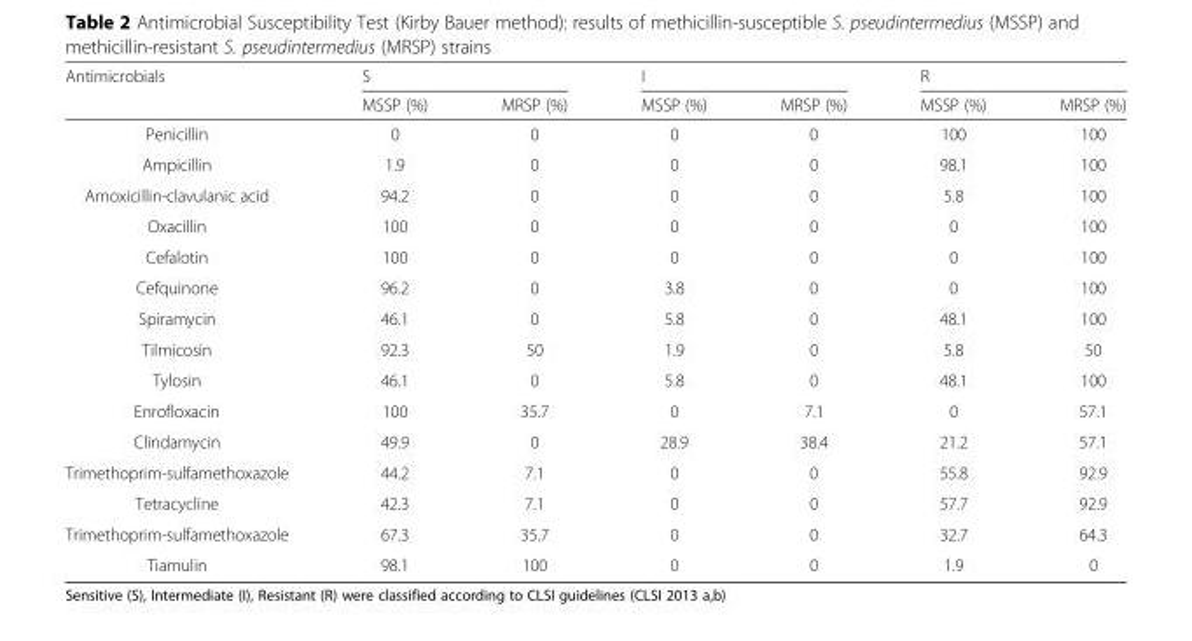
<table><thead><tr><td rowspan="2">Antimicrobials</td><td colspan="2">S</td><td colspan="2">I</td><td colspan="2">R</td></tr><tr><td>MSSP (%)</td><td>MRSP (%)</td><td>MSSP (%)</td><td>MRSP (%)</td><td>MSSP (%)</td><td>MRSP (%)</td></tr></thead><tbody><tr><td>Penicillin</td><td>0</td><td>0</td><td>0</td><td>0</td><td>100</td><td>100</td></tr><tr><td>Ampicillin</td><td>1.9</td><td>0</td><td>0</td><td>0</td><td>98.1</td><td>100</td></tr><tr><td>Amoxicillin-clavulanic acid</td><td>94.2</td><td>0</td><td>0</td><td>0</td><td>5.8</td><td>100</td></tr><tr><td>Oxacillin</td><td>100</td><td>0</td><td>0</td><td>0</td><td>0</td><td>100</td></tr><tr><td>Cefalotin</td><td>100</td><td>0</td><td>0</td><td>0</td><td>0</td><td>100</td></tr><tr><td>Cefquinone</td><td>96.2</td><td>0</td><td>3.8</td><td>0</td><td>0</td><td>100</td></tr><tr><td>Spiramycin</td><td>46.1</td><td>0</td><td>5.8</td><td>0</td><td>48.1</td><td>100</td></tr><tr><td>Tilmicosin</td><td>92.3</td><td>50</td><td>1.9</td><td>0</td><td>5.8</td><td>50</td></tr><tr><td>Tylosin</td><td>46.1</td><td>0</td><td>5.8</td><td>0</td><td>48.1</td><td>100</td></tr><tr><td>Enrofloxacin</td><td>100</td><td>35.7</td><td>0</td><td>7.1</td><td>0</td><td>57.1</td></tr><tr><td>Clindamycin</td><td>49.9</td><td>0</td><td>28.9</td><td>38.4</td><td>21.2</td><td>57.1</td></tr><tr><td>Trimethoprim-sulfamethoxazole</td><td>44.2</td><td>7.1</td><td>0</td><td>0</td><td>55.8</td><td>92.9</td></tr><tr><td>Tetracycline</td><td>42.3</td><td>7.1</td><td>0</td><td>0</td><td>57.7</td><td>92.9</td></tr><tr><td>Trimethoprim-sulfamethoxazole</td><td>67.3</td><td>35.7</td><td>0</td><td>0</td><td>32.7</td><td>64.3</td></tr><tr><td>Tiamulin</td><td>98.1</td><td>100</td><td>0</td><td>0</td><td>1.9</td><td>0</td></tr></tbody></table>